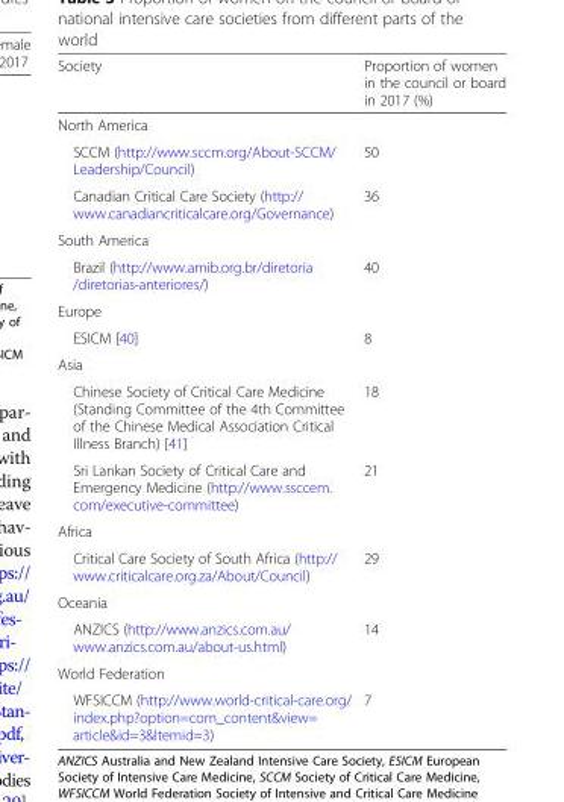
<table><thead><tr><td>Society</td><td>Proportion of women in the council or board in 2017 (%)</td></tr></thead><tbody><tr><td colspan="2">North America</td></tr><tr><td>SCCM (http://www.sccm.org/About-SCCM/ Leadership/Council)</td><td>50</td></tr><tr><td>Canadian Critical Care Society (http:// www.canadiancriticalcare.org/Governance)</td><td>36</td></tr><tr><td colspan="2">South America</td></tr><tr><td>Brazil (http://www.amib.org.br/diretoria /diretorias-anteriores/)</td><td>40</td></tr><tr><td colspan="2">Europe</td></tr><tr><td>ESICM [40]</td><td>8</td></tr><tr><td colspan="2">Asia</td></tr><tr><td>Chinese Society of Critical Care Medicine (Standing Committee of the 4th Committee of the Chinese Medical Association Critical Illness Branch) [41]</td><td>18</td></tr><tr><td>Sri Lankan Society of Critical Care and Emergency Medicine (http://www.ssccem. com/executive-committee)</td><td>21</td></tr><tr><td colspan="2">Africa</td></tr><tr><td>Critical Care Society of South Africa (http:// www.criticalcare.org.za/About/Council)</td><td>29</td></tr><tr><td colspan="2">Oceania</td></tr><tr><td>ANZICS (http://www.anzics.com.au/ www.anzics.com.au/about-us.html)</td><td>14</td></tr><tr><td colspan="2">World Federation</td></tr><tr><td>WFSICCM (http://www.world-critical-care.org/ index.php?option=com_content&amp;view= article&amp;id=3&amp;Itemid=3)</td><td>7</td></tr></tbody></table>